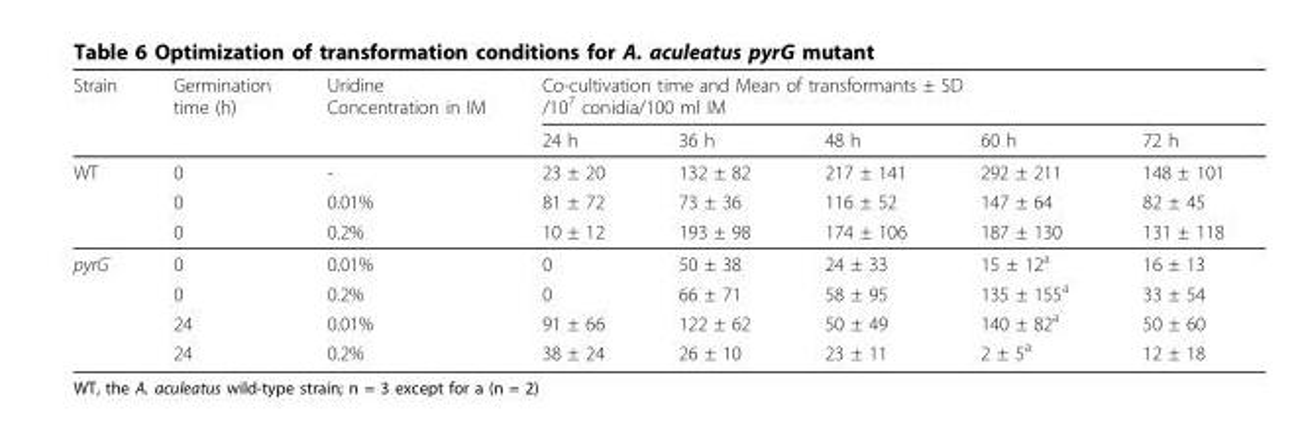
<table><thead><tr><td rowspan="2">Strain</td><td rowspan="2">Germination time (h)</td><td rowspan="2">Uridine Concentration in IM</td><td colspan="4">Co-cultivation time and Mean of transformants ± SD /10<sup>7</sup> conidia/100 ml IM</td><td rowspan="2">72 h</td></tr><tr><td>24 h</td><td>36 h</td><td>48 h</td><td>60 h</td></tr></thead><tbody><tr><td rowspan="3">WT</td><td>0</td><td>-</td><td>23 ± 20</td><td>132 ± 82</td><td>217 ± 141</td><td>292 ± 211</td><td>148 ± 101</td></tr><tr><td>0</td><td>0.01%</td><td>81 ± 72</td><td>73 ± 36</td><td>116 ± 52</td><td>147 ± 64</td><td>82 ± 45</td></tr><tr><td>0</td><td>0.2%</td><td>10 ± 12</td><td>193 ± 98</td><td>174 ± 106</td><td>187 ± 130</td><td>131 ± 118</td></tr><tr><td rowspan="4">pyrG<sup>-</sup></td><td>0</td><td>0.01%</td><td>0</td><td>50 ± 38</td><td>24 ± 33</td><td>15 ± 12<sup>a</sup></td><td>16 ± 13</td></tr><tr><td>0</td><td>0.2%</td><td>0</td><td>66 ± 71</td><td>58 ± 95</td><td>135 ± 155<sup>a</sup></td><td>33 ± 54</td></tr><tr><td>24</td><td>0.01%</td><td>91 ± 66</td><td>122 ± 62</td><td>50 ± 49</td><td>140 ± 82<sup>a</sup></td><td>50 ± 60</td></tr><tr><td>24</td><td>0.2%</td><td>38 ± 24</td><td>26 ± 10</td><td>23 ± 11</td><td>2 ± 5<sup>a</sup></td><td>12 ± 18</td></tr></tbody></table>